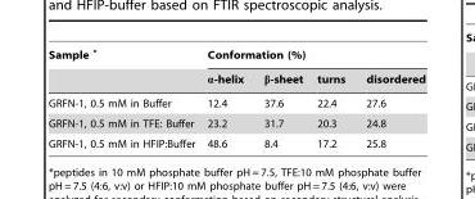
<table><thead><tr><td rowspan="2">Sample *</td><td colspan="4">Conformation (%)</td></tr><tr><td>α-helix</td><td>β-sheet</td><td>turns</td><td>disordered</td></tr></thead><tbody><tr><td>GRFN-1, 0.5 mM in Buffer</td><td>12.4</td><td>37.6</td><td>22.4</td><td>27.6</td></tr><tr><td>GRFN-1, 0.5 mM in TFE: Buffer</td><td>23.2</td><td>31.7</td><td>20.3</td><td>24.8</td></tr><tr><td>GRFN-1, 0.5 mM in HFIP:Buffer</td><td>48.6</td><td>8.4</td><td>17.2</td><td>25.8</td></tr></tbody></table>